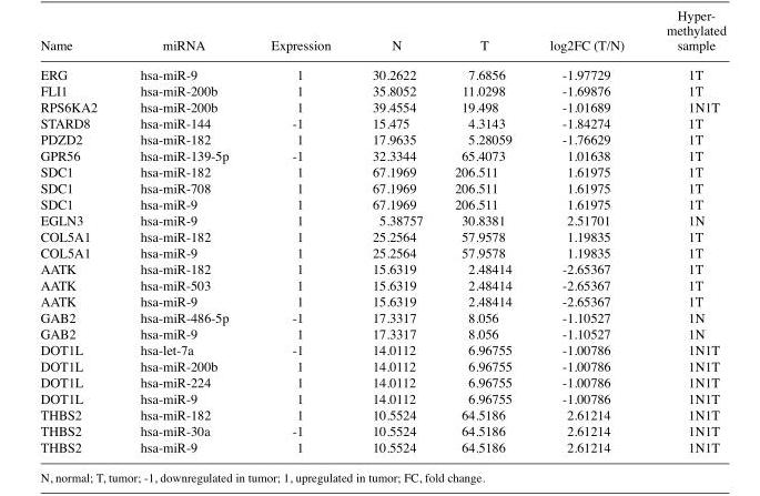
<table><thead><tr><td>Name</td><td>miRNA</td><td>Expression</td><td>N</td><td>T</td><td>log2FC (T/N)</td><td>sample</td></tr></thead><tbody><tr><td>ERG</td><td>hsa-miR-9</td><td>1</td><td>30.2622</td><td>7.6856</td><td>-1.97729</td><td>1T</td></tr><tr><td>FLI1</td><td>hsa-miR-200b</td><td>1</td><td>35.8052</td><td>11.0298</td><td>-1.69876</td><td>1T</td></tr><tr><td>RPS6KA2</td><td>hsa-miR-200b</td><td>1</td><td>39.4554</td><td>19.498</td><td>-1.01689</td><td>1N1T</td></tr><tr><td>STARD8</td><td>hsa-miR-144</td><td>-1</td><td>15.475</td><td>4.3143</td><td>-1.84274</td><td>1T</td></tr><tr><td>PDZD2</td><td>hsa-miR-182</td><td>1</td><td>17.9635</td><td>5.28059</td><td>-1.76629</td><td>1T</td></tr><tr><td>GPR56</td><td>hsa-miR-139-5p</td><td>-1</td><td>32.3344</td><td>65.4073</td><td>1.01638</td><td>1T</td></tr><tr><td>SDC1</td><td>hsa-miR-182</td><td>1</td><td>67.1969</td><td>206.511</td><td>1.61975</td><td>1T</td></tr><tr><td>SDC1</td><td>hsa-miR-708</td><td>1</td><td>67.1969</td><td>206.511</td><td>1.61975</td><td>1T</td></tr><tr><td>SDC1</td><td>hsa-miR-9</td><td>1</td><td>67.1969</td><td>206.511</td><td>1.61975</td><td>1T</td></tr><tr><td>EGLN3</td><td>hsa-miR-9</td><td>1</td><td>5.38757</td><td>30.8381</td><td>2.51701</td><td>1N</td></tr><tr><td>COL5A1</td><td>hsa-miR-182</td><td>1</td><td>25.2564</td><td>57.9578</td><td>1.19835</td><td>1T</td></tr><tr><td>COL5A1</td><td>hsa-miR-9</td><td>1</td><td>25.2564</td><td>57.9578</td><td>1.19835</td><td>1T</td></tr><tr><td>AATK</td><td>hsa-miR-182</td><td>1</td><td>15.6319</td><td>2.48414</td><td>-2.65367</td><td>1T</td></tr><tr><td>AATK</td><td>hsa-miR-503</td><td>1</td><td>15.6319</td><td>2.48414</td><td>-2.65367</td><td>1T</td></tr><tr><td>AATK</td><td>hsa-miR-9</td><td>1</td><td>15.6319</td><td>2.48414</td><td>-2.65367</td><td>1T</td></tr><tr><td>GAB2</td><td>hsa-miR-486-5p</td><td>-1</td><td>17.3317</td><td>8.056</td><td>-1.10527</td><td>1N</td></tr><tr><td>GAB2</td><td>hsa-miR-9</td><td>1</td><td>17.3317</td><td>8.056</td><td>-1.10527</td><td>1N</td></tr><tr><td>DOT1L</td><td>hsa-let-7a</td><td>-1</td><td>14.0112</td><td>6.96755</td><td>-1.00786</td><td>1N1T</td></tr><tr><td>DOT1L</td><td>hsa-miR-200b</td><td>1</td><td>14.0112</td><td>6.96755</td><td>-1.00786</td><td>1N1T</td></tr><tr><td>DOT1L</td><td>hsa-miR-224</td><td>1</td><td>14.0112</td><td>6.96755</td><td>-1.00786</td><td>1N1T</td></tr><tr><td>DOT1L</td><td>hsa-miR-9</td><td>1</td><td>14.0112</td><td>6.96755</td><td>-1.00786</td><td>1N1T</td></tr><tr><td>THBS2</td><td>hsa-miR-182</td><td>1</td><td>10.5524</td><td>64.5186</td><td>2.61214</td><td>1N1T</td></tr><tr><td>THBS2</td><td>hsa-miR-30a</td><td>-1</td><td>10.5524</td><td>64.5186</td><td>2.61214</td><td>1N1T</td></tr><tr><td>THBS2</td><td>hsa-miR-9</td><td>1</td><td>10.5524</td><td>64.5186</td><td>2.61214</td><td>1N1T</td></tr></tbody></table>